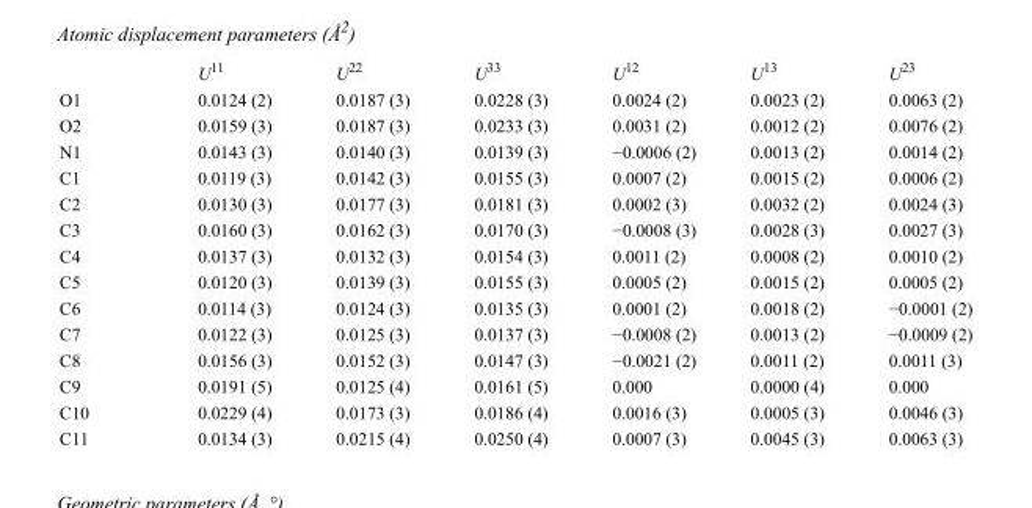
<table><thead><tr><td></td><td>U<sup>11</sup></td><td>U<sup>22</sup></td><td>U<sup>33</sup></td><td>U<sup>12</sup></td><td>U<sup>13</sup></td><td>U<sup>23</sup></td></tr></thead><tbody><tr><td>O1</td><td>0.0124 (2)</td><td>0.0187 (3)</td><td>0.0228 (3)</td><td>0.0024 (2)</td><td>0.0023 (2)</td><td>0.0063 (2)</td></tr><tr><td>O2</td><td>0.0159 (3)</td><td>0.0187 (3)</td><td>0.0233 (3)</td><td>0.0031 (2)</td><td>0.0012 (2)</td><td>0.0076 (2)</td></tr><tr><td>N1</td><td>0.0143 (3)</td><td>0.0140 (3)</td><td>0.0139 (3)</td><td>−0.0006 (2)</td><td>0.0013 (2)</td><td>0.0014 (2)</td></tr><tr><td>C1</td><td>0.0119 (3)</td><td>0.0142 (3)</td><td>0.0155 (3)</td><td>0.0007 (2)</td><td>0.0015 (2)</td><td>0.0006 (2)</td></tr><tr><td>C2</td><td>0.0130 (3)</td><td>0.0177 (3)</td><td>0.0181 (3)</td><td>0.0002 (3)</td><td>0.0032 (2)</td><td>0.0024 (3)</td></tr><tr><td>C3</td><td>0.0160 (3)</td><td>0.0162 (3)</td><td>0.0170 (3)</td><td>−0.0008 (3)</td><td>0.0028 (3)</td><td>0.0027 (3)</td></tr><tr><td>C4</td><td>0.0137 (3)</td><td>0.0132 (3)</td><td>0.0154 (3)</td><td>0.0011 (2)</td><td>0.0008 (2)</td><td>0.0010 (2)</td></tr><tr><td>C5</td><td>0.0120 (3)</td><td>0.0139 (3)</td><td>0.0155 (3)</td><td>0.0005 (2)</td><td>0.0015 (2)</td><td>0.0005 (2)</td></tr><tr><td>C6</td><td>0.0114 (3)</td><td>0.0124 (3)</td><td>0.0135 (3)</td><td>0.0001 (2)</td><td>0.0018 (2)</td><td>−0.0001 (2)</td></tr><tr><td>C7</td><td>0.0122 (3)</td><td>0.0125 (3)</td><td>0.0137 (3)</td><td>−0.0008 (2)</td><td>0.0013 (2)</td><td>−0.0009 (2)</td></tr><tr><td>C8</td><td>0.0156 (3)</td><td>0.0152 (3)</td><td>0.0147 (3)</td><td>−0.0021 (2)</td><td>0.0011 (2)</td><td>0.0011 (3)</td></tr><tr><td>C9</td><td>0.0191 (5)</td><td>0.0125 (4)</td><td>0.0161 (5)</td><td>0.000</td><td>0.0000 (4)</td><td>0.000</td></tr><tr><td>C10</td><td>0.0229 (4)</td><td>0.0173 (3)</td><td>0.0186 (4)</td><td>0.0016 (3)</td><td>0.0005 (3)</td><td>0.0046 (3)</td></tr><tr><td>C11</td><td>0.0134 (3)</td><td>0.0215 (4)</td><td>0.0250 (4)</td><td>0.0007 (3)</td><td>0.0045 (3)</td><td>0.0063 (3)</td></tr></tbody></table>